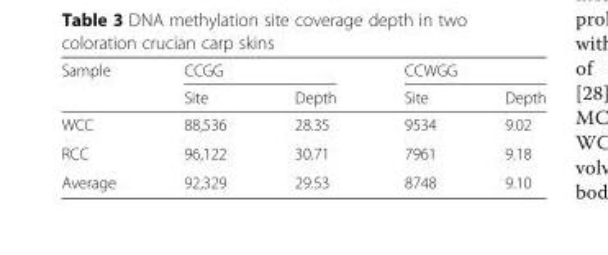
<table><thead><tr><td rowspan="2">Sample</td><td colspan="2">CCGG</td><td colspan="2">CCWGG</td></tr><tr><td>Site</td><td>Depth</td><td>Site</td><td>Depth</td></tr></thead><tbody><tr><td>WCC</td><td>88,536</td><td>28.35</td><td>9534</td><td>9.02</td></tr><tr><td>RCC</td><td>96,122</td><td>30.71</td><td>7961</td><td>9.18</td></tr><tr><td>Average</td><td>92,329</td><td>29.53</td><td>8748</td><td>9.10</td></tr></tbody></table>